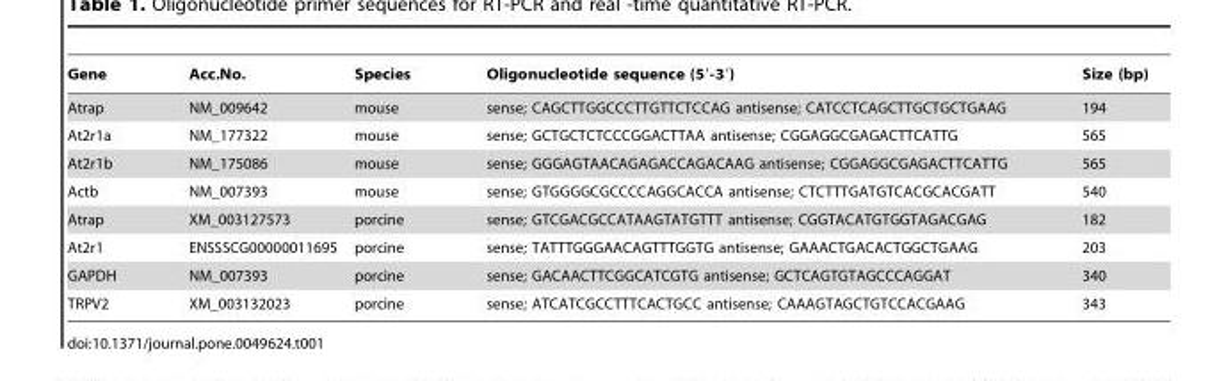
<table><thead><tr><td>Gene</td><td>Acc.No.</td><td>Species</td><td>Oligonucleotide sequence (5′-3′)</td><td>Size (bp)</td></tr></thead><tbody><tr><td>Atrap</td><td>NM_009642</td><td>mouse</td><td>sense; CAGCTTGGCCCTTGTTCTCCAG antisense; CATCCTCAGCTTGCTGCTGAAG</td><td>194</td></tr><tr><td>At2r1a</td><td>NM_177322</td><td>mouse</td><td>sense; GCTGCTCTCCCGGACTTAA antisense; CGGAGGCGAGACTTCATTG</td><td>565</td></tr><tr><td>At2r1b</td><td>NM_175086</td><td>mouse</td><td>sense; GGGAGTAACAGAGACCAGACAAG antisense; CGGAGGCGAGACTTCATTG</td><td>565</td></tr><tr><td>Actb</td><td>NM_007393</td><td>mouse</td><td>sense; GTGGGGCGCCCCAGGCACCA antisense; CTCTTTGATGTCACGCACGATT</td><td>540</td></tr><tr><td>Atrap</td><td>XM_003127573</td><td>porcine</td><td>sense; GTCGACGCCATAAGTATGTTT antisense; CGGTACATGTGGTAGACGAG</td><td>182</td></tr><tr><td>At2r1</td><td>ENSSSCG00000011695</td><td>porcine</td><td>sense; TATTTGGGAACAGTTTGGTG antisense; GAAACTGACACTGGCTGAAG</td><td>203</td></tr><tr><td>GAPDH</td><td>NM_007393</td><td>porcine</td><td>sense; GACAACTTCGGCATCGTG antisense; GCTCAGTGTAGCCCAGGAT</td><td>340</td></tr><tr><td>TRPV2</td><td>XM_003132023</td><td>porcine</td><td>sense; ATCATCGCCTTTCACTGCC antisense; CAAAGTAGCTGTCCACGAAG</td><td>343</td></tr></tbody></table>